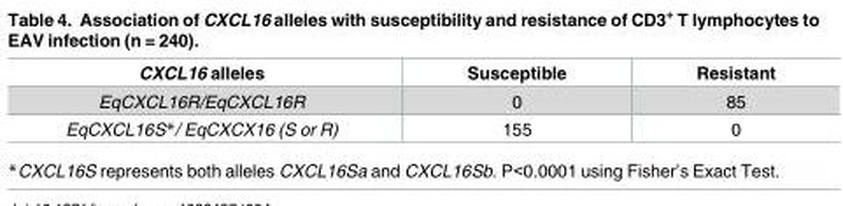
<table><thead><tr><td>CXCL16 alleles</td><td>Susceptible</td><td>Resistant</td></tr></thead><tbody><tr><td>EqCXCL16R/EqCXCL16R</td><td>0</td><td>85</td></tr><tr><td>EqCXCL16S*/ EqCXCX16 (S or R)</td><td>155</td><td>0</td></tr></tbody></table>